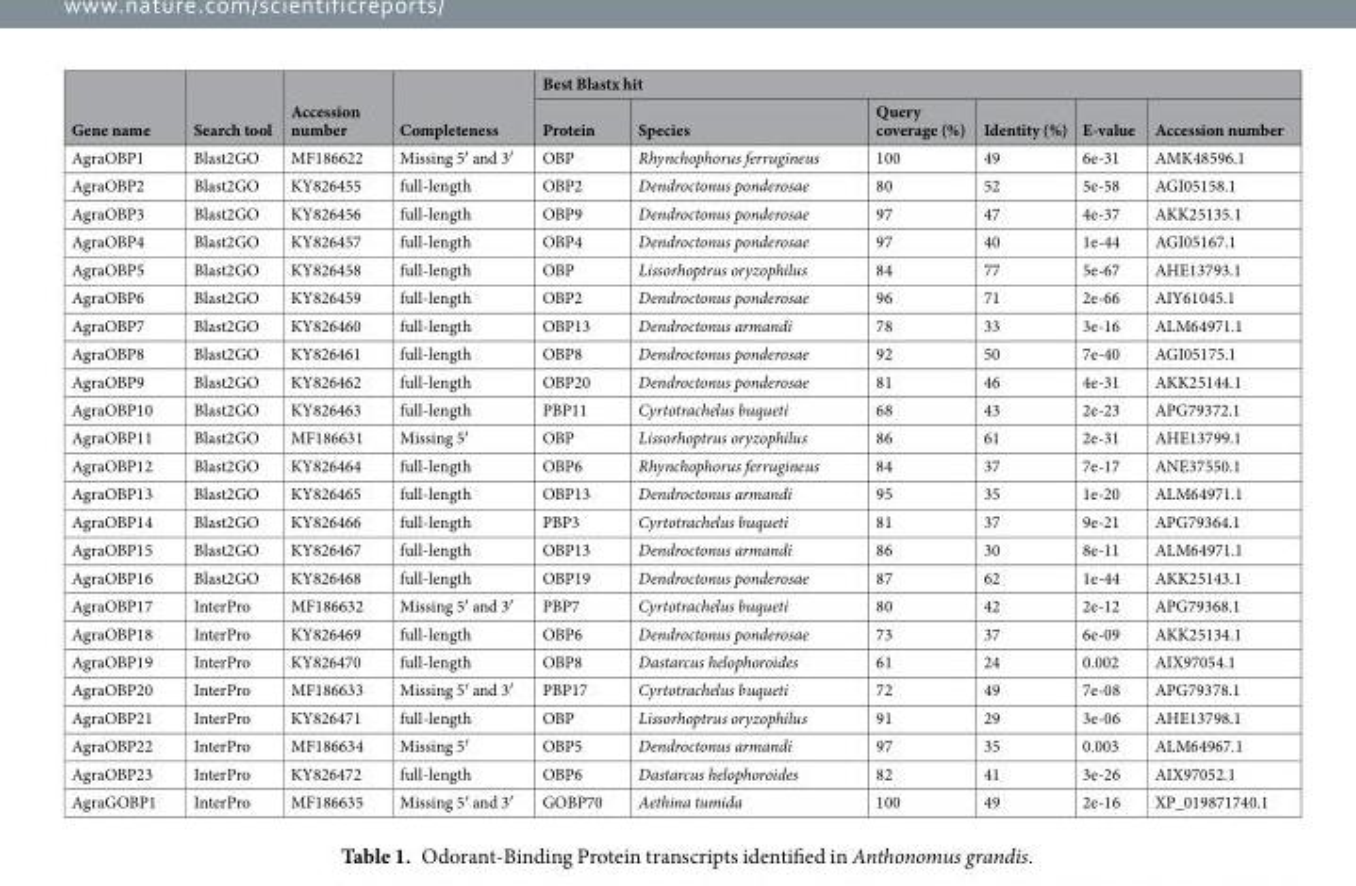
<table><thead><tr><td rowspan="2">Gene name</td><td rowspan="2">Search tool</td><td rowspan="2">Accession number</td><td rowspan="2">Completeness</td><td colspan="6">Best Blastx hit</td></tr><tr><td>Protein</td><td>Species</td><td>Query coverage (%)</td><td>Identity (%)</td><td>E-value</td><td>Accession number</td></tr></thead><tbody><tr><td>AgraOBP1</td><td>Blast2GO</td><td>MF186622</td><td>Missing 5′ and 3′</td><td>OBP</td><td>Rhynchophorus ferrugineus</td><td>100</td><td>49</td><td>6e-31</td><td>AMK48596.1</td></tr><tr><td>AgraOBP2</td><td>Blast2GO</td><td>KY826455</td><td>full-length</td><td>OBP2</td><td>Dendroctonus ponderosae</td><td>80</td><td>52</td><td>5e-58</td><td>AGI05158.1</td></tr><tr><td>AgraOBP3</td><td>Blast2GO</td><td>KY826456</td><td>full-length</td><td>OBP9</td><td>Dendroctonus ponderosae</td><td>97</td><td>47</td><td>4e-37</td><td>AKK25135.1</td></tr><tr><td>AgraOBP4</td><td>Blast2GO</td><td>KY826457</td><td>full-length</td><td>OBP4</td><td>Dendroctonus ponderosae</td><td>97</td><td>40</td><td>1e-44</td><td>AGI05167.1</td></tr><tr><td>AgraOBP5</td><td>Blast2GO</td><td>KY826458</td><td>full-length</td><td>OBP</td><td>Lissorhoptrus oryzophilus</td><td>84</td><td>77</td><td>5e-67</td><td>AHE13793.1</td></tr><tr><td>AgraOBP6</td><td>Blast2GO</td><td>KY826459</td><td>full-length</td><td>OBP2</td><td>Dendroctonus ponderosae</td><td>96</td><td>71</td><td>2e-66</td><td>AIY61045.1</td></tr><tr><td>AgraOBP7</td><td>Blast2GO</td><td>KY826460</td><td>full-length</td><td>OBP13</td><td>Dendroctonus armandi</td><td>78</td><td>33</td><td>3e-16</td><td>ALM64971.1</td></tr><tr><td>AgraOBP8</td><td>Blast2GO</td><td>KY826461</td><td>full-length</td><td>OBP8</td><td>Dendroctonus ponderosae</td><td>92</td><td>50</td><td>7e-40</td><td>AGI05175.1</td></tr><tr><td>AgraOBP9</td><td>Blast2GO</td><td>KY826462</td><td>full-length</td><td>OBP20</td><td>Dendroctonus ponderosae</td><td>81</td><td>46</td><td>4e-31</td><td>AKK25144.1</td></tr><tr><td>AgraOBP10</td><td>Blast2GO</td><td>KY826463</td><td>full-length</td><td>PBP11</td><td>Cyrtotrachelus buqueti</td><td>68</td><td>43</td><td>2e-23</td><td>APG79372.1</td></tr><tr><td>AgraOBP11</td><td>Blast2GO</td><td>MF186631</td><td>Missing 5′</td><td>OBP</td><td>Lissorhoptrus oryzophilus</td><td>86</td><td>61</td><td>2e-31</td><td>AHE13799.1</td></tr><tr><td>AgraOBP12</td><td>Blast2GO</td><td>KY826464</td><td>full-length</td><td>OBP6</td><td>Rhynchophorus ferrugineus</td><td>84</td><td>37</td><td>7e-17</td><td>ANE37550.1</td></tr><tr><td>AgraOBP13</td><td>Blast2GO</td><td>KY826465</td><td>full-length</td><td>OBP13</td><td>Dendroctonus armandi</td><td>95</td><td>35</td><td>1e-20</td><td>ALM64971.1</td></tr><tr><td>AgraOBP14</td><td>Blast2GO</td><td>KY826466</td><td>full-length</td><td>PBP3</td><td>Cyrtotrachelus buqueti</td><td>81</td><td>37</td><td>9e-21</td><td>APG79364.1</td></tr><tr><td>AgraOBP15</td><td>Blast2GO</td><td>KY826467</td><td>full-length</td><td>OBP13</td><td>Dendroctonus armandi</td><td>86</td><td>30</td><td>8e-11</td><td>ALM64971.1</td></tr><tr><td>AgraOBP16</td><td>Blast2GO</td><td>KY826468</td><td>full-length</td><td>OBP19</td><td>Dendroctonus ponderosae</td><td>87</td><td>62</td><td>1e-44</td><td>AKK25143.1</td></tr><tr><td>AgraOBP17</td><td>InterPro</td><td>MF186632</td><td>Missing 5′ and 3′</td><td>PBP7</td><td>Cyrtotrachelus buqueti</td><td>80</td><td>42</td><td>2e-12</td><td>APG79368.1</td></tr><tr><td>AgraOBP18</td><td>InterPro</td><td>KY826469</td><td>full-length</td><td>OBP6</td><td>Dendroctonus ponderosae</td><td>73</td><td>37</td><td>6e-09</td><td>AKK25134.1</td></tr><tr><td>AgraOBP19</td><td>InterPro</td><td>KY826470</td><td>full-length</td><td>OBP8</td><td>Dastarcus helophoroides</td><td>61</td><td>24</td><td>0.002</td><td>AIX97054.1</td></tr><tr><td>AgraOBP20</td><td>InterPro</td><td>MF186633</td><td>Missing 5′ and 3′</td><td>PBP17</td><td>Cyrtotrachelus buqueti</td><td>72</td><td>49</td><td>7e-08</td><td>APG79378.1</td></tr><tr><td>AgraOBP21</td><td>InterPro</td><td>KY826471</td><td>full-length</td><td>OBP</td><td>Lissorhoptrus oryzophilus</td><td>91</td><td>29</td><td>3e-06</td><td>AHE13798.1</td></tr><tr><td>AgraOBP22</td><td>InterPro</td><td>MF186634</td><td>Missing 5′</td><td>OBP5</td><td>Dendroctonus armandi</td><td>97</td><td>35</td><td>0.003</td><td>ALM64967.1</td></tr><tr><td>AgraOBP23</td><td>InterPro</td><td>KY826472</td><td>full-length</td><td>OBP6</td><td>Dastarcus helophoroides</td><td>82</td><td>41</td><td>3e-26</td><td>AIX97052.1</td></tr><tr><td>AgraGOBP1</td><td>InterPro</td><td>MF186635</td><td>Missing 5′ and 3′</td><td>GOBP70</td><td>Aethina tumida</td><td>100</td><td>49</td><td>2e-16</td><td>XP_019871740.1</td></tr></tbody></table>